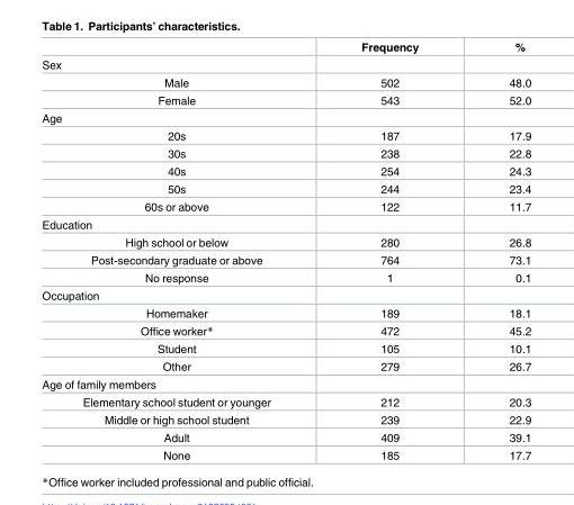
<table><thead><tr><td></td><td>Frequency</td><td>%</td></tr></thead><tbody><tr><td colspan="3">Sex</td></tr><tr><td>Male</td><td>502</td><td>48.0</td></tr><tr><td>Female</td><td>543</td><td>52.0</td></tr><tr><td colspan="3">Age</td></tr><tr><td>20s</td><td>187</td><td>17.9</td></tr><tr><td>30s</td><td>238</td><td>22.8</td></tr><tr><td>40s</td><td>254</td><td>24.3</td></tr><tr><td>50s</td><td>244</td><td>23.4</td></tr><tr><td>60s or above</td><td>122</td><td>11.7</td></tr><tr><td colspan="3">Education</td></tr><tr><td>High school or below</td><td>280</td><td>26.8</td></tr><tr><td>Post-secondary graduate or above</td><td>764</td><td>73.1</td></tr><tr><td>No response</td><td>1</td><td>0.1</td></tr><tr><td colspan="3">Occupation</td></tr><tr><td>Homemaker</td><td>189</td><td>18.1</td></tr><tr><td>Office worker*</td><td>472</td><td>45.2</td></tr><tr><td>Student</td><td>105</td><td>10.1</td></tr><tr><td>Other</td><td>279</td><td>26.7</td></tr><tr><td colspan="3">Age of family members</td></tr><tr><td>Elementary school student or younger</td><td>212</td><td>20.3</td></tr><tr><td>Middle or high school student</td><td>239</td><td>22.9</td></tr><tr><td>Adult</td><td>409</td><td>39.1</td></tr><tr><td>None</td><td>185</td><td>17.7</td></tr></tbody></table>